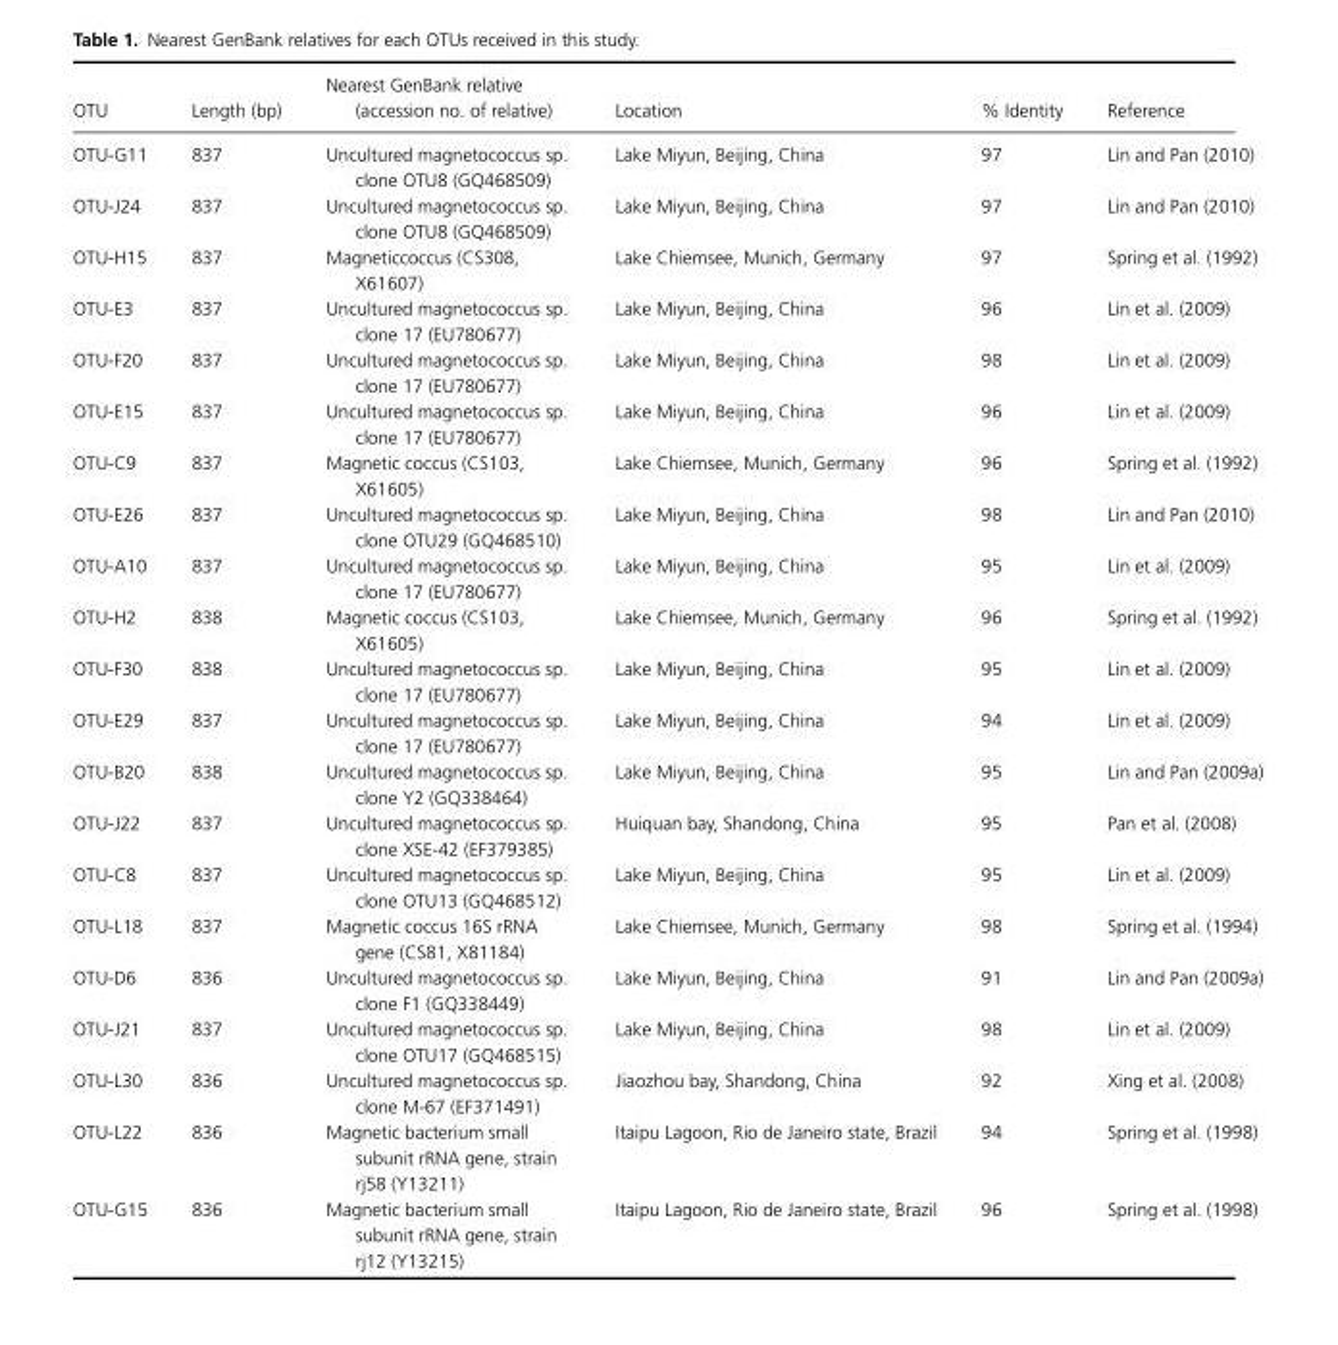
<table><thead><tr><td>OTU</td><td>Length (bp)</td><td>Nearest GenBank relative (accession no. of relative)</td><td>Location</td><td>% Identity</td><td>Reference</td></tr></thead><tbody><tr><td>OTU-G11</td><td>837</td><td>Uncultured magnetococcus sp. clone OTU8 (GQ468509)</td><td>Lake Miyun, Beijing, China</td><td>97</td><td>Lin and Pan (2010)</td></tr><tr><td>OTU-J24</td><td>837</td><td>Uncultured magnetococcus sp. clone OTU8 (GQ468509)</td><td>Lake Miyun, Beijing, China</td><td>97</td><td>Lin and Pan (2010)</td></tr><tr><td>OTU-H15</td><td>837</td><td>Magneticcoccus (CS308, X61607)</td><td>Lake Chiemsee, Munich, Germany</td><td>97</td><td>Spring et al. (1992)</td></tr><tr><td>OTU-E3</td><td>837</td><td>Uncultured magnetococcus sp. clone 17 (EU780677)</td><td>Lake Miyun, Beijing, China</td><td>96</td><td>Lin et al. (2009)</td></tr><tr><td>OTU-F20</td><td>837</td><td>Uncultured magnetococcus sp. clone 17 (EU780677)</td><td>Lake Miyun, Beijing, China</td><td>98</td><td>Lin et al. (2009)</td></tr><tr><td>OTU-E15</td><td>837</td><td>Uncultured magnetococcus sp. clone 17 (EU780677)</td><td>Lake Miyun, Beijing, China</td><td>96</td><td>Lin et al. (2009)</td></tr><tr><td>OTU-C9</td><td>837</td><td>Magnetic coccus (CS103, X61605)</td><td>Lake Chiemsee, Munich, Germany</td><td>96</td><td>Spring et al. (1992)</td></tr><tr><td>OTU-E26</td><td>837</td><td>Uncultured magnetococcus sp. clone OTU29 (GQ468510)</td><td>Lake Miyun, Beijing, China</td><td>98</td><td>Lin and Pan (2010)</td></tr><tr><td>OTU-A10</td><td>837</td><td>Uncultured magnetococcus sp. clone 17 (EU780677)</td><td>Lake Miyun, Beijing, China</td><td>95</td><td>Lin et al. (2009)</td></tr><tr><td>OTU-H2</td><td>838</td><td>Magnetic coccus (CS103, X61605)</td><td>Lake Chiemsee, Munich, Germany</td><td>96</td><td>Spring et al. (1992)</td></tr><tr><td>OTU-F30</td><td>838</td><td>Uncultured magnetococcus sp. clone 17 (EU780677)</td><td>Lake Miyun, Beijing, China</td><td>95</td><td>Lin et al. (2009)</td></tr><tr><td>OTU-E29</td><td>837</td><td>Uncultured magnetococcus sp. clone 17 (EU780677)</td><td>Lake Miyun, Beijing, China</td><td>94</td><td>Lin et al. (2009)</td></tr><tr><td>OTU-B20</td><td>838</td><td>Uncultured magnetococcus sp. clone Y2 (GQ338464)</td><td>Lake Miyun, Beijing, China</td><td>95</td><td>Lin and Pan (2009a)</td></tr><tr><td>OTU-J22</td><td>837</td><td>Uncultured magnetococcus sp. clone XSE-42 (EF379385)</td><td>Huiquan bay, Shandong, China</td><td>95</td><td>Pan et al. (2008)</td></tr><tr><td>OTU-C8</td><td>837</td><td>Uncultured magnetococcus sp. clone OTU13 (GQ468512)</td><td>Lake Miyun, Beijing, China</td><td>95</td><td>Lin et al. (2009)</td></tr><tr><td>OTU-L18</td><td>837</td><td>Magnetic coccus 16S rRNA gene (CS81, X81184)</td><td>Lake Chiemsee, Munich, Germany</td><td>98</td><td>Spring et al. (1994)</td></tr><tr><td>OTU-D6</td><td>836</td><td>Uncultured magnetococcus sp. clone F1 (GQ338449)</td><td>Lake Miyun, Beijing, China</td><td>91</td><td>Lin and Pan (2009a)</td></tr><tr><td>OTU-J21</td><td>837</td><td>Uncultured magnetococcus sp. clone OTU17 (GQ468515)</td><td>Lake Miyun, Beijing, China</td><td>98</td><td>Lin et al. (2009)</td></tr><tr><td>OTU-L30</td><td>836</td><td>Uncultured magnetococcus sp. clone M-67 (EF371491)</td><td>Jiaozhou bay, Shandong, China</td><td>92</td><td>Xing et al. (2008)</td></tr><tr><td>OTU-L22</td><td>836</td><td>Magnetic bacterium small subunit rRNA gene, strain rj58 (Y13211)</td><td>Itaipu Lagoon, Rio de Janeiro state, Brazil</td><td>94</td><td>Spring et al. (1998)</td></tr><tr><td>OTU-G15</td><td>836</td><td>Magnetic bacterium small subunit rRNA gene, strain rj12 (Y13215)</td><td>Itaipu Lagoon, Rio de Janeiro state, Brazil</td><td>96</td><td>Spring et al. (1998)</td></tr></tbody></table>